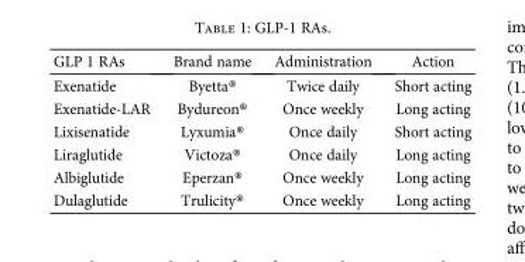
<table><thead><tr><td>GLP 1 RAs</td><td>Brand name</td><td>Administration</td><td>Action</td></tr></thead><tbody><tr><td>Exenatide</td><td>Byetta®</td><td>Twice daily</td><td>Short acting</td></tr><tr><td>Exenatide-LAR</td><td>Bydureon®</td><td>Once weekly</td><td>Long acting</td></tr><tr><td>Lixisenatide</td><td>Lyxumia®</td><td>Once daily</td><td>Short acting</td></tr><tr><td>Liraglutide</td><td>Victoza®</td><td>Once daily</td><td>Long acting</td></tr><tr><td>Albiglutide</td><td>Eperzan®</td><td>Once weekly</td><td>Long acting</td></tr><tr><td>Dulaglutide</td><td>Trulicity®</td><td>Once weekly</td><td>Long acting</td></tr></tbody></table>